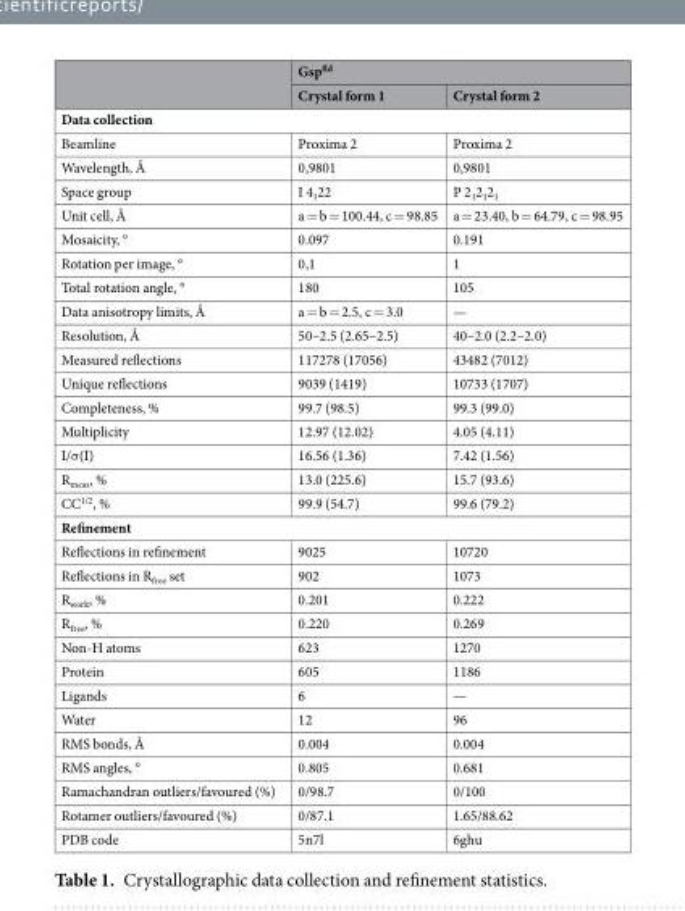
<table><thead><tr><td rowspan="2"></td><td colspan="2">Gsp<sup>fld</sup></td></tr><tr><td>Crystal form 1</td><td>Crystal form 2</td></tr></thead><tbody><tr><td colspan="3">Data collection</td></tr><tr><td>Beamline</td><td>Proxima 2</td><td>Proxima 2</td></tr><tr><td>Wavelength, Å</td><td>0,9801</td><td>0,9801</td></tr><tr><td>Space group</td><td>I 4<sub>1</sub>22</td><td>P 2<sub>1</sub>2<sub>1</sub>2<sub>1</sub></td></tr><tr><td>Unit cell, Å</td><td>a = b = 100.44, c = 98.85</td><td>a = 23.40, b = 64.79, c = 98.95</td></tr><tr><td>Mosaicity, °</td><td>0.097</td><td>0.191</td></tr><tr><td>Rotation per image, °</td><td>0,1</td><td>1</td></tr><tr><td>Total rotation angle, °</td><td>180</td><td>105</td></tr><tr><td>Data anisotropy limits, Å</td><td>a = b = 2.5, c = 3.0</td><td>—</td></tr><tr><td>Resolution, Å</td><td>50–2.5 (2.65–2.5)</td><td>40–2.0 (2.2–2.0)</td></tr><tr><td>Measured reflections</td><td>117278 (17056)</td><td>43482 (7012)</td></tr><tr><td>Unique reflections</td><td>9039 (1419)</td><td>10733 (1707)</td></tr><tr><td>Completeness, %</td><td>99.7 (98.5)</td><td>99.3 (99.0)</td></tr><tr><td>Multiplicity</td><td>12.97 (12.02)</td><td>4.05 (4.11)</td></tr><tr><td>I/σ(I)</td><td>16.56 (1.36)</td><td>7.42 (1.56)</td></tr><tr><td>R<sub>meas</sub>, %</td><td>13.0 (225.6)</td><td>15.7 (93.6)</td></tr><tr><td>CC<sup>1/2</sup>, %</td><td>99.9 (54.7)</td><td>99.6 (79.2)</td></tr><tr><td colspan="3">Refinement</td></tr><tr><td>Reflections in refinement</td><td>9025</td><td>10720</td></tr><tr><td>Reflections in R<sub>free</sub> set</td><td>902</td><td>1073</td></tr><tr><td>R<sub>work</sub>, %</td><td>0.201</td><td>0.222</td></tr><tr><td>R<sub>free</sub>, %</td><td>0.220</td><td>0.269</td></tr><tr><td>Non-H atoms</td><td>623</td><td>1270</td></tr><tr><td>Protein</td><td>605</td><td>1186</td></tr><tr><td>Ligands</td><td>6</td><td>—</td></tr><tr><td>Water</td><td>12</td><td>96</td></tr><tr><td>RMS bonds, Å</td><td>0.004</td><td>0.004</td></tr><tr><td>RMS angles, °</td><td>0.805</td><td>0.681</td></tr><tr><td>Ramachandran outliers/favoured (%)</td><td>0/98.7</td><td>0/100</td></tr><tr><td>Rotamer outliers/favoured (%)</td><td>0/87.1</td><td>1.65/88.62</td></tr><tr><td>PDB code</td><td>5n7l</td><td>6ghu</td></tr></tbody></table>